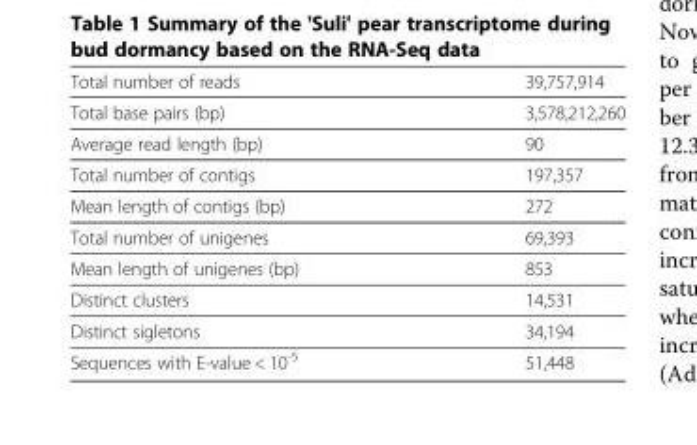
<table><tbody><tr><td>Total number of reads</td><td>39,757,914</td></tr><tr><td>Total base pairs (bp)</td><td>3,578,212,260</td></tr><tr><td>Average read length (bp)</td><td>90</td></tr><tr><td>Total number of contigs</td><td>197,357</td></tr><tr><td>Mean length of contigs (bp)</td><td>272</td></tr><tr><td>Total number of unigenes</td><td>69,393</td></tr><tr><td>Mean length of unigenes (bp)</td><td>853</td></tr><tr><td>Distinct clusters</td><td>14,531</td></tr><tr><td>Distinct sigletons</td><td>34,194</td></tr><tr><td>Sequences with E-value &lt; 10<sup>-5</sup></td><td>51,448</td></tr></tbody></table>